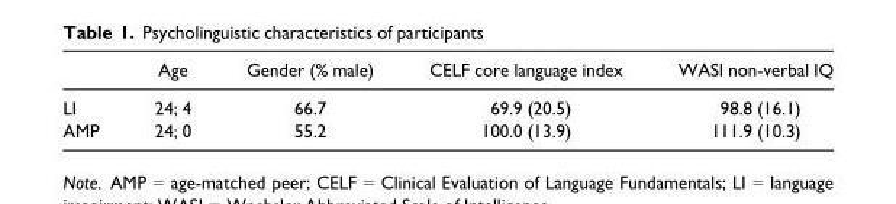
<table><thead><tr><td></td><td>Age</td><td>Gender (% male)</td><td>CELF core language index</td><td>WASI non-verbal IQ</td></tr></thead><tbody><tr><td>LI</td><td>24; 4</td><td>66.7</td><td>69.9 (20.5)</td><td>98.8 (16.1)</td></tr><tr><td>AMP</td><td>24; 0</td><td>55.2</td><td>100.0 (13.9)</td><td>111.9 (10.3)</td></tr></tbody></table>